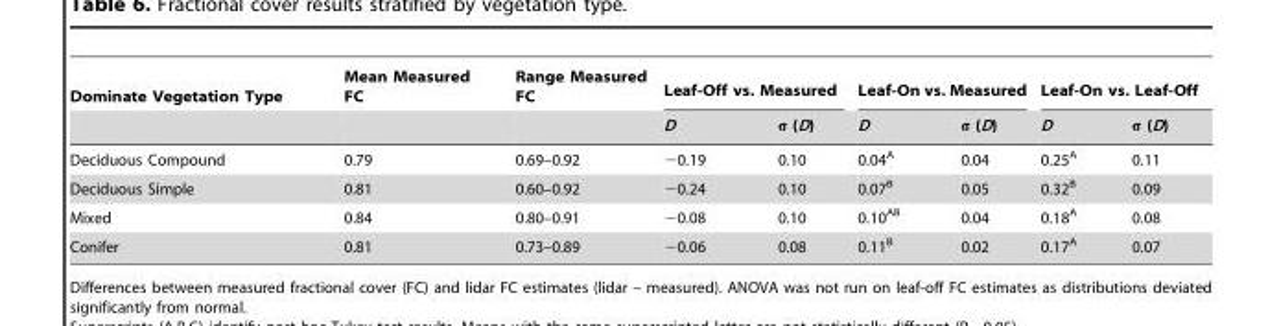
<table><thead><tr><td rowspan="2">Dominate Vegetation Type</td><td rowspan="2">Mean Measured FC</td><td rowspan="2">Range Measured FC</td><td colspan="2">Leaf-Off vs. Measured</td><td colspan="2">Leaf-On vs. Measured</td><td colspan="2">Leaf-On vs. Leaf-Off</td></tr><tr><td>D</td><td>σ (D)</td><td>D</td><td>σ (D)</td><td>D</td><td>σ (D)</td></tr></thead><tbody><tr><td>Deciduous Compound</td><td>0.79</td><td>0.69–0.92</td><td>−0.19</td><td>0.10</td><td>0.04<sup>A</sup></td><td>0.04</td><td>0.25<sup>A</sup></td><td>0.11</td></tr><tr><td>Deciduous Simple</td><td>0.81</td><td>0.60–0.92</td><td>−0.24</td><td>0.10</td><td>0.07<sup>B</sup></td><td>0.05</td><td>0.32<sup>B</sup></td><td>0.09</td></tr><tr><td>Mixed</td><td>0.84</td><td>0.80–0.91</td><td>−0.08</td><td>0.10</td><td>0.10<sup>AB</sup></td><td>0.04</td><td>0.18<sup>A</sup></td><td>0.08</td></tr><tr><td>Conifer</td><td>0.81</td><td>0.73–0.89</td><td>−0.06</td><td>0.08</td><td>0.11<sup>B</sup></td><td>0.02</td><td>0.17<sup>A</sup></td><td>0.07</td></tr></tbody></table>